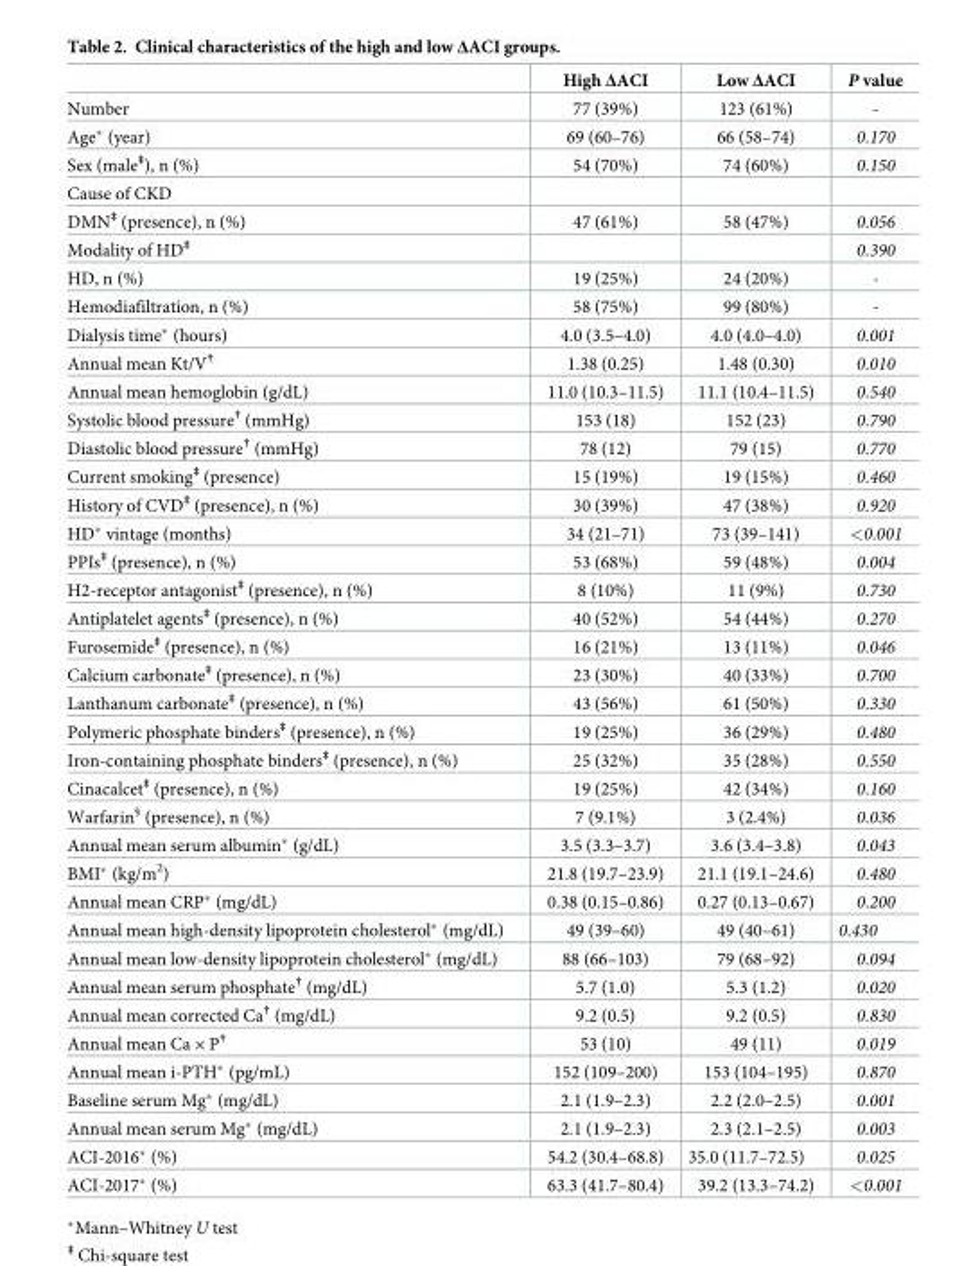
<table><thead><tr><td></td><td>High ΔACI</td><td>Low ΔACI</td><td>P value</td></tr></thead><tbody><tr><td>Number</td><td>77 (39%)</td><td>123 (61%)</td><td>-</td></tr><tr><td>Age* (year)</td><td>69 (60–76)</td><td>66 (58–74)</td><td>0.170</td></tr><tr><td>Sex (male<sup>‡</sup>), n (%)</td><td>54 (70%)</td><td>74 (60%)</td><td>0.150</td></tr><tr><td colspan="4">Cause of CKD</td></tr><tr><td>DMN<sup>‡</sup> (presence), n (%)</td><td>47 (61%)</td><td>58 (47%)</td><td>0.056</td></tr><tr><td>Modality of HD<sup>‡</sup></td><td></td><td></td><td>0.390</td></tr><tr><td>HD, n (%)</td><td>19 (25%)</td><td>24 (20%)</td><td>-</td></tr><tr><td>Hemodiafiltration, n (%)</td><td>58 (75%)</td><td>99 (80%)</td><td>-</td></tr><tr><td>Dialysis time* (hours)</td><td>4.0 (3.5–4.0)</td><td>4.0 (4.0–4.0)</td><td>0.001</td></tr><tr><td>Annual mean Kt/V<sup>†</sup></td><td>1.38 (0.25)</td><td>1.48 (0.30)</td><td>0.010</td></tr><tr><td>Annual mean hemoglobin (g/dL)</td><td>11.0 (10.3–11.5)</td><td>11.1 (10.4–11.5)</td><td>0.540</td></tr><tr><td>Systolic blood pressure<sup>†</sup> (mmHg)</td><td>153 (18)</td><td>152 (23)</td><td>0.790</td></tr><tr><td>Diastolic blood pressure<sup>†</sup> (mmHg)</td><td>78 (12)</td><td>79 (15)</td><td>0.770</td></tr><tr><td>Current smoking<sup>‡</sup> (presence)</td><td>15 (19%)</td><td>19 (15%)</td><td>0.460</td></tr><tr><td>History of CVD<sup>‡</sup> (presence), n (%)</td><td>30 (39%)</td><td>47 (38%)</td><td>0.920</td></tr><tr><td>HD* vintage (months)</td><td>34 (21–71)</td><td>73 (39–141)</td><td>&lt;0.001</td></tr><tr><td>PPIs<sup>‡</sup> (presence), n (%)</td><td>53 (68%)</td><td>59 (48%)</td><td>0.004</td></tr><tr><td>H2-receptor antagonist<sup>‡</sup> (presence), n (%)</td><td>8 (10%)</td><td>11 (9%)</td><td>0.730</td></tr><tr><td>Antiplatelet agents<sup>‡</sup> (presence), n (%)</td><td>40 (52%)</td><td>54 (44%)</td><td>0.270</td></tr><tr><td>Furosemide<sup>‡</sup> (presence), n (%)</td><td>16 (21%)</td><td>13 (11%)</td><td>0.046</td></tr><tr><td>Calcium carbonate<sup>‡</sup> (presence), n (%)</td><td>23 (30%)</td><td>40 (33%)</td><td>0.700</td></tr><tr><td>Lanthanum carbonate<sup>‡</sup> (presence), n (%)</td><td>43 (56%)</td><td>61 (50%)</td><td>0.330</td></tr><tr><td>Polymeric phosphate binders<sup>‡</sup> (presence), n (%)</td><td>19 (25%)</td><td>36 (29%)</td><td>0.480</td></tr><tr><td>Iron-containing phosphate binders<sup>‡</sup> (presence), n (%)</td><td>25 (32%)</td><td>35 (28%)</td><td>0.550</td></tr><tr><td>Cinacalcet<sup>‡</sup> (presence), n (%)</td><td>19 (25%)</td><td>42 (34%)</td><td>0.160</td></tr><tr><td>Warfarin<sup>§</sup> (presence), n (%)</td><td>7 (9.1%)</td><td>3 (2.4%)</td><td>0.036</td></tr><tr><td>Annual mean serum albumin* (g/dL)</td><td>3.5 (3.3–3.7)</td><td>3.6 (3.4–3.8)</td><td>0.043</td></tr><tr><td>BMI* (kg/m<sup>2</sup>)</td><td>21.8 (19.7–23.9)</td><td>21.1 (19.1–24.6)</td><td>0.480</td></tr><tr><td>Annual mean CRP* (mg/dL)</td><td>0.38 (0.15–0.86)</td><td>0.27 (0.13–0.67)</td><td>0.200</td></tr><tr><td>Annual mean high-density lipoprotein cholesterol* (mg/dL)</td><td>49 (39–60)</td><td>49 (40–61)</td><td>0.430</td></tr><tr><td>Annual mean low-density lipoprotein cholesterol* (mg/dL)</td><td>88 (66–103)</td><td>79 (68–92)</td><td>0.094</td></tr><tr><td>Annual mean serum phosphate<sup>†</sup> (mg/dL)</td><td>5.7 (1.0)</td><td>5.3 (1.2)</td><td>0.020</td></tr><tr><td>Annual mean corrected Ca<sup>†</sup> (mg/dL)</td><td>9.2 (0.5)</td><td>9.2 (0.5)</td><td>0.830</td></tr><tr><td>Annual mean Ca × P<sup>†</sup></td><td>53 (10)</td><td>49 (11)</td><td>0.019</td></tr><tr><td>Annual mean i-PTH* (pg/mL)</td><td>152 (109–200)</td><td>153 (104–195)</td><td>0.870</td></tr><tr><td>Baseline serum Mg* (mg/dL)</td><td>2.1 (1.9–2.3)</td><td>2.2 (2.0–2.5)</td><td>0.001</td></tr><tr><td>Annual mean serum Mg* (mg/dL)</td><td>2.1 (1.9–2.3)</td><td>2.3 (2.1–2.5)</td><td>0.003</td></tr><tr><td>ACI-2016* (%)</td><td>54.2 (30.4–68.8)</td><td>35.0 (11.7–72.5)</td><td>0.025</td></tr><tr><td>ACI-2017* (%)</td><td>63.3 (41.7–80.4)</td><td>39.2 (13.3–74.2)</td><td>&lt;0.001</td></tr></tbody></table>